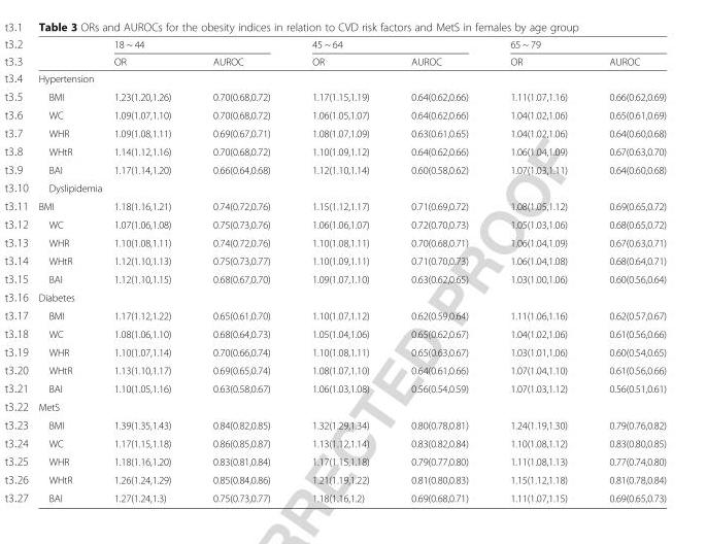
<table><thead><tr><td rowspan="2"></td><td colspan="2">18 ~ 44</td><td colspan="2">45 ~ 64</td><td colspan="2">65 ~ 79</td></tr><tr><td>OR</td><td>AUROC</td><td>OR</td><td>AUROC</td><td>OR</td><td>AUROC</td></tr></thead><tbody><tr><td colspan="7">Hypertension</td></tr><tr><td>BMI</td><td>1.23(1.20,1.26)</td><td>0.70(0.68,0.72)</td><td>1.17(1.15,1.19)</td><td>0.64(0.62,0.66)</td><td>1.11(1.07,1.16)</td><td>0.66(0.62,0.69)</td></tr><tr><td>WC</td><td>1.09(1.07,1.10)</td><td>0.70(0.68,0.72)</td><td>1.06(1.05,1.07)</td><td>0.64(0.62,0.66)</td><td>1.04(1.02,1.06)</td><td>0.65(0.61,0.69)</td></tr><tr><td>WHR</td><td>1.09(1.08,1.11)</td><td>0.69(0.67,0.71)</td><td>1.08(1.07,1.09)</td><td>0.63(0.61,0.65)</td><td>1.04(1.02,1.06)</td><td>0.64(0.60,0.68)</td></tr><tr><td>WHtR</td><td>1.14(1.12,1.16)</td><td>0.70(0.68,0.72)</td><td>1.10(1.09,1.12)</td><td>0.64(0.62,0.66)</td><td>1.06(1.04,1.09)</td><td>0.67(0.63,0.70)</td></tr><tr><td>BAI</td><td>1.17(1.14,1.20)</td><td>0.66(0.64,0.68)</td><td>1.12(1.10,1.14)</td><td>0.60(0.58,0.62)</td><td>1.07(1.03,1.11)</td><td>0.64(0.60,0.68)</td></tr><tr><td colspan="7">Dyslipidemia</td></tr><tr><td>BMI</td><td>1.18(1.16,1.21)</td><td>0.74(0.72,0.76)</td><td>1.15(1.12,1.17)</td><td>0.71(0.69,0.72)</td><td>1.08(1.05,1.12)</td><td>0.69(0.65,0.72)</td></tr><tr><td>WC</td><td>1.07(1.06,1.08)</td><td>0.75(0.73,0.76)</td><td>1.06(1.06,1.07)</td><td>0.72(0.70,0.73)</td><td>1.05(1.03,1.06)</td><td>0.68(0.65,0.72)</td></tr><tr><td>WHR</td><td>1.10(1.08,1.11)</td><td>0.74(0.72,0.76)</td><td>1.10(1.08,1.11)</td><td>0.70(0.68,0.71)</td><td>1.06(1.04,1.09)</td><td>0.67(0.63,0.71)</td></tr><tr><td>WHtR</td><td>1.12(1.10,1.13)</td><td>0.75(0.73,0.77)</td><td>1.10(1.09,1.11)</td><td>0.71(0.70,0.73)</td><td>1.06(1.04,1.08)</td><td>0.68(0.64,0.71)</td></tr><tr><td>BAI</td><td>1.12(1.10,1.15)</td><td>0.68(0.67,0.70)</td><td>1.09(1.07,1.10)</td><td>0.63(0.62,0.65)</td><td>1.03(1.00,1.06)</td><td>0.60(0.56,0.64)</td></tr><tr><td colspan="7">Diabetes</td></tr><tr><td>BMI</td><td>1.17(1.12,1.22)</td><td>0.65(0.61,0.70)</td><td>1.10(1.07,1.12)</td><td>0.62(0.59,0.64)</td><td>1.11(1.06,1.16)</td><td>0.62(0.57,0.67)</td></tr><tr><td>WC</td><td>1.08(1.06,1.10)</td><td>0.68(0.64,0.73)</td><td>1.05(1.04,1.06)</td><td>0.65(0.62,0.67)</td><td>1.04(1.02,1.06)</td><td>0.61(0.56,0.66)</td></tr><tr><td>WHR</td><td>1.10(1.07,1.14)</td><td>0.70(0.66,0.74)</td><td>1.10(1.08,1.11)</td><td>0.65(0.63,0.67)</td><td>1.03(1.01,1.06)</td><td>0.60(0.54,0.65)</td></tr><tr><td>WHtR</td><td>1.13(1.10,1.17)</td><td>0.69(0.65,0.74)</td><td>1.08(1.07,1.10)</td><td>0.64(0.61,0.66)</td><td>1.07(1.04,1.10)</td><td>0.61(0.56,0.66)</td></tr><tr><td>BAI</td><td>1.10(1.05,1.16)</td><td>0.63(0.58,0.67)</td><td>1.06(1.03,1.08)</td><td>0.56(0.54,0.59)</td><td>1.07(1.03,1.12)</td><td>0.56(0.51,0.61)</td></tr><tr><td colspan="7">MetS</td></tr><tr><td>BMI</td><td>1.39(1.35,1.43)</td><td>0.84(0.82,0.85)</td><td>1.32(1.29,1.34)</td><td>0.80(0.78,0.81)</td><td>1.24(1.19,1.30)</td><td>0.79(0.76,0.82)</td></tr><tr><td>WC</td><td>1.17(1.15,1.18)</td><td>0.86(0.85,0.87)</td><td>1.13(1.12,1.14)</td><td>0.83(0.82,0.84)</td><td>1.10(1.08,1.12)</td><td>0.83(0.80,0.85)</td></tr><tr><td>WHR</td><td>1.18(1.16,1.20)</td><td>0.83(0.81,0.84)</td><td>1.17(1.15,1.18)</td><td>0.79(0.77,0.80)</td><td>1.11(1.08,1.13)</td><td>0.77(0.74,0.80)</td></tr><tr><td>WHtR</td><td>1.26(1.24,1.29)</td><td>0.85(0.84,0.86)</td><td>1.21(1.19,1.22)</td><td>0.81(0.80,0.83)</td><td>1.15(1.12,1.18)</td><td>0.81(0.78,0.84)</td></tr><tr><td>BAI</td><td>1.27(1.24,1.3)</td><td>0.75(0.73,0.77)</td><td>1.18(1.16,1.2)</td><td>0.69(0.68,0.71)</td><td>1.11(1.07,1.15)</td><td>0.69(0.65,0.73)</td></tr></tbody></table>